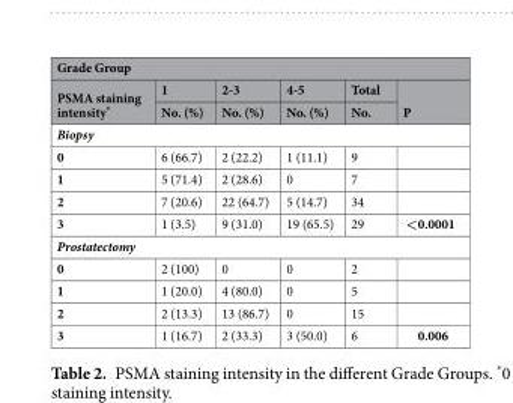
<table><thead><tr><td colspan="6">Grade Group</td></tr><tr><td rowspan="2">PSMA staining intensity*</td><td rowspan="2">1 No. (%)</td><td rowspan="2">2-3 No. (%)</td><td rowspan="2">4-5 No. (%)</td><td rowspan="2">Total No.</td><td rowspan="2">P</td></tr><tr></tr></thead><tbody><tr><td colspan="6">Biopsy</td></tr><tr><td>0</td><td>6 (66.7)</td><td>2 (22.2)</td><td>1 (11.1)</td><td>9</td><td></td></tr><tr><td>1</td><td>5 (71.4)</td><td>2 (28.6)</td><td>0</td><td>7</td><td></td></tr><tr><td>2</td><td>7 (20.6)</td><td>22 (64.7)</td><td>5 (14.7)</td><td>34</td><td></td></tr><tr><td>3</td><td>1 (3.5)</td><td>9 (31.0)</td><td>19 (65.5)</td><td>29</td><td>&lt;0.0001</td></tr><tr><td colspan="6">Prostatectomy</td></tr><tr><td>0</td><td>2 (100)</td><td>0</td><td>0</td><td>2</td><td></td></tr><tr><td>1</td><td>1 (20.0)</td><td>4 (80.0)</td><td>0</td><td>5</td><td></td></tr><tr><td>2</td><td>2 (13.3)</td><td>13 (86.7)</td><td>0</td><td>15</td><td></td></tr><tr><td>3</td><td>1 (16.7)</td><td>2 (33.3)</td><td>3 (50.0)</td><td>6</td><td>0.006</td></tr></tbody></table>